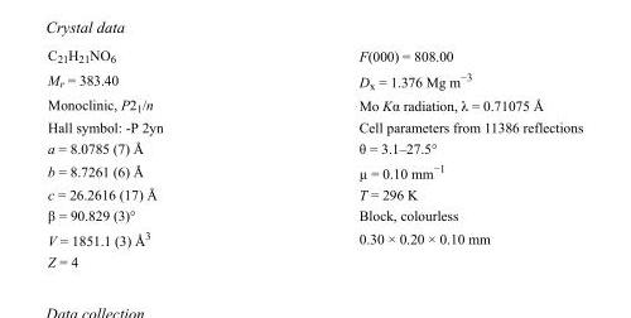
<table><tbody><tr><td>C<sub>21</sub>H<sub>21</sub>NO<sub>6</sub></td><td>F(000) = 808.00</td></tr><tr><td>M<sub>r</sub> = 383.40</td><td>D<sub>x</sub> = 1.376 Mg m<sup>−3</sup></td></tr><tr><td>Monoclinic, P2<sub>1</sub>/n</td><td>Mo Kα radiation, λ = 0.71075 Å</td></tr><tr><td>Hall symbol: -P 2yn</td><td>Cell parameters from 11386 reflections</td></tr><tr><td>a = 8.0785 (7) Å</td><td>θ = 3.1–27.5°</td></tr><tr><td>b = 8.7261 (6) Å</td><td>µ = 0.10 mm<sup>−1</sup></td></tr><tr><td>c = 26.2616 (17) Å</td><td>T = 296 K</td></tr><tr><td>β = 90.829 (3)°</td><td>Block, colourless</td></tr><tr><td>V = 1851.1 (3) Å<sup>3</sup></td><td>0.30 × 0.20 × 0.10 mm</td></tr><tr><td>Z = 4</td><td></td></tr></tbody></table>